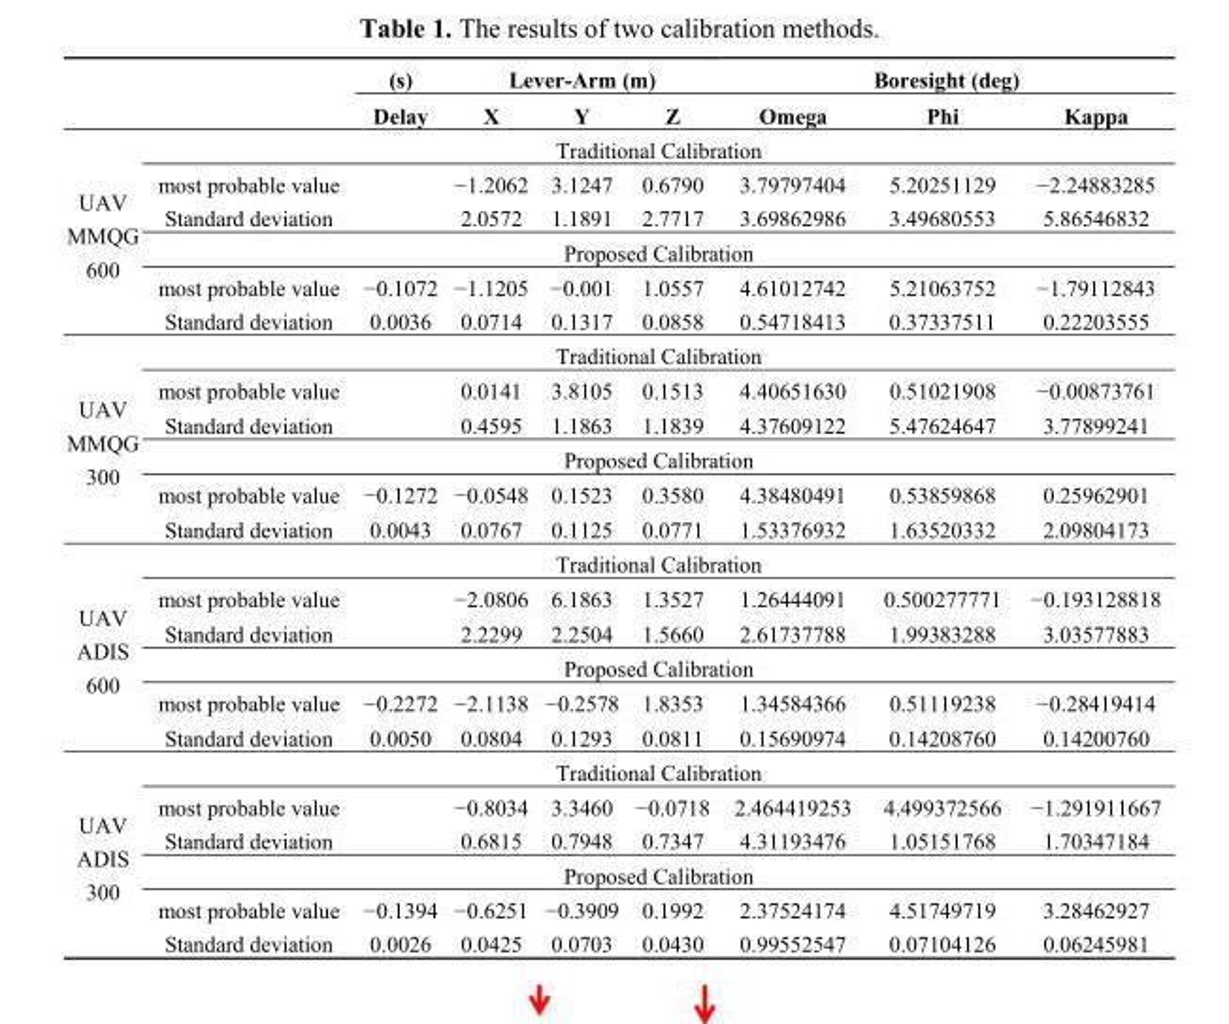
<table><thead><tr><td rowspan="2"></td><td rowspan="2"></td><td rowspan="2">(s) Delay</td><td colspan="3">Lever-Arm (m)</td><td colspan="3">Boresight (deg)</td></tr><tr><td>X</td><td>Y</td><td>Z</td><td>Omega</td><td>Phi</td><td>Kappa</td></tr></thead><tbody><tr><td rowspan="6">UAV MMQG 600</td><td colspan="8">Traditional Calibration</td></tr><tr><td>most probable value</td><td></td><td>−1.2062</td><td>3.1247</td><td>0.6790</td><td>3.79797404</td><td>5.20251129</td><td>−2.24883285</td></tr><tr><td>Standard deviation</td><td></td><td>2.0572</td><td>1.1891</td><td>2.7717</td><td>3.69862986</td><td>3.49680553</td><td>5.86546832</td></tr><tr><td colspan="8">Proposed Calibration</td></tr><tr><td>most probable value</td><td>−0.1072</td><td>−1.1205</td><td>−0.001</td><td>1.0557</td><td>4.61012742</td><td>5.21063752</td><td>−1.79112843</td></tr><tr><td>Standard deviation</td><td>0.0036</td><td>0.0714</td><td>0.1317</td><td>0.0858</td><td>0.54718413</td><td>0.37337511</td><td>0.22203555</td></tr><tr><td rowspan="6">UAV MMQG 300</td><td colspan="8">Traditional Calibration</td></tr><tr><td>most probable value</td><td></td><td>0.0141</td><td>3.8105</td><td>0.1513</td><td>4.40651630</td><td>0.51021908</td><td>−0.00873761</td></tr><tr><td>Standard deviation</td><td></td><td>0.4595</td><td>1.1863</td><td>1.1839</td><td>4.37609122</td><td>5.47624647</td><td>3.77899241</td></tr><tr><td colspan="8">Proposed Calibration</td></tr><tr><td>most probable value</td><td>−0.1272</td><td>−0.0548</td><td>0.1523</td><td>0.3580</td><td>4.38480491</td><td>0.53859868</td><td>0.25962901</td></tr><tr><td>Standard deviation</td><td>0.0043</td><td>0.0767</td><td>0.1125</td><td>0.0771</td><td>1.53376932</td><td>1.63520332</td><td>2.09804173</td></tr><tr><td rowspan="6">UAV ADIS 600</td><td colspan="8">Traditional Calibration</td></tr><tr><td>most probable value</td><td></td><td>−2.0806</td><td>6.1863</td><td>1.3527</td><td>1.26444091</td><td>0.500277771</td><td>−0.193128818</td></tr><tr><td>Standard deviation</td><td></td><td>2.2299</td><td>2.2504</td><td>1.5660</td><td>2.61737788</td><td>1.99383288</td><td>3.03577883</td></tr><tr><td colspan="8">Proposed Calibration</td></tr><tr><td>most probable value</td><td>−0.2272</td><td>−2.1138</td><td>−0.2578</td><td>1.8353</td><td>1.34584366</td><td>0.51119238</td><td>−0.28419414</td></tr><tr><td>Standard deviation</td><td>0.0050</td><td>0.0804</td><td>0.1293</td><td>0.0811</td><td>0.15690974</td><td>0.14208760</td><td>0.14200760</td></tr><tr><td rowspan="6">UAV ADIS 300</td><td colspan="8">Traditional Calibration</td></tr><tr><td>most probable value</td><td></td><td>−0.8034</td><td>3.3460</td><td>−0.0718</td><td>2.464419253</td><td>4.499372566</td><td>−1.291911667</td></tr><tr><td>Standard deviation</td><td></td><td>0.6815</td><td>0.7948</td><td>0.7347</td><td>4.31193476</td><td>1.05151768</td><td>1.70347184</td></tr><tr><td colspan="8">Proposed Calibration</td></tr><tr><td>most probable value</td><td>−0.1394</td><td>−0.6251</td><td>−0.3909</td><td>0.1992</td><td>2.37524174</td><td>4.51749719</td><td>3.28462927</td></tr><tr><td>Standard deviation</td><td>0.0026</td><td>0.0425</td><td>0.0703</td><td>0.0430</td><td>0.99552547</td><td>0.07104126</td><td>0.06245981</td></tr></tbody></table>